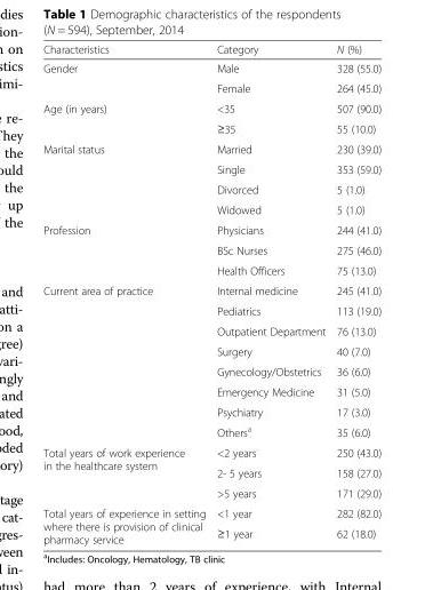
<table><thead><tr><td>Characteristics</td><td>Category</td><td>N (%)</td></tr></thead><tbody><tr><td rowspan="2">Gender</td><td>Male</td><td>328 (55.0)</td></tr><tr><td>Female</td><td>264 (45.0)</td></tr><tr><td rowspan="2">Age (in years)</td><td>&lt;35</td><td>507 (90.0)</td></tr><tr><td>≥35</td><td>55 (10.0)</td></tr><tr><td rowspan="4">Marital status</td><td>Married</td><td>230 (39.0)</td></tr><tr><td>Single</td><td>353 (59.0)</td></tr><tr><td>Divorced</td><td>5 (1.0)</td></tr><tr><td>Widowed</td><td>5 (1.0)</td></tr><tr><td rowspan="3">Profession</td><td>Physicians</td><td>244 (41.0)</td></tr><tr><td>BSc Nurses</td><td>275 (46.0)</td></tr><tr><td>Health Officers</td><td>75 (13.0)</td></tr><tr><td rowspan="8">Current area of practice</td><td>Internal medicine</td><td>245 (41.0)</td></tr><tr><td>Pediatrics</td><td>113 (19.0)</td></tr><tr><td>Outpatient Department</td><td>76 (13.0)</td></tr><tr><td>Surgery</td><td>40 (7.0)</td></tr><tr><td>Gynecology/Obstetrics</td><td>36 (6.0)</td></tr><tr><td>Emergency Medicine</td><td>31 (5.0)</td></tr><tr><td>Psychiatry</td><td>17 (3.0)</td></tr><tr><td>Others<sup>a</sup></td><td>35 (6.0)</td></tr><tr><td rowspan="3">Total years of work experience in the healthcare system</td><td>&lt;2 years</td><td>250 (43.0)</td></tr><tr><td>2- 5 years</td><td>158 (27.0)</td></tr><tr><td>&gt;5 years</td><td>171 (29.0)</td></tr><tr><td rowspan="2">Total years of experience in setting where there is provision of clinical pharmacy service</td><td>&lt;1 year</td><td>282 (82.0)</td></tr><tr><td>≥1 year</td><td>62 (18.0)</td></tr></tbody></table>